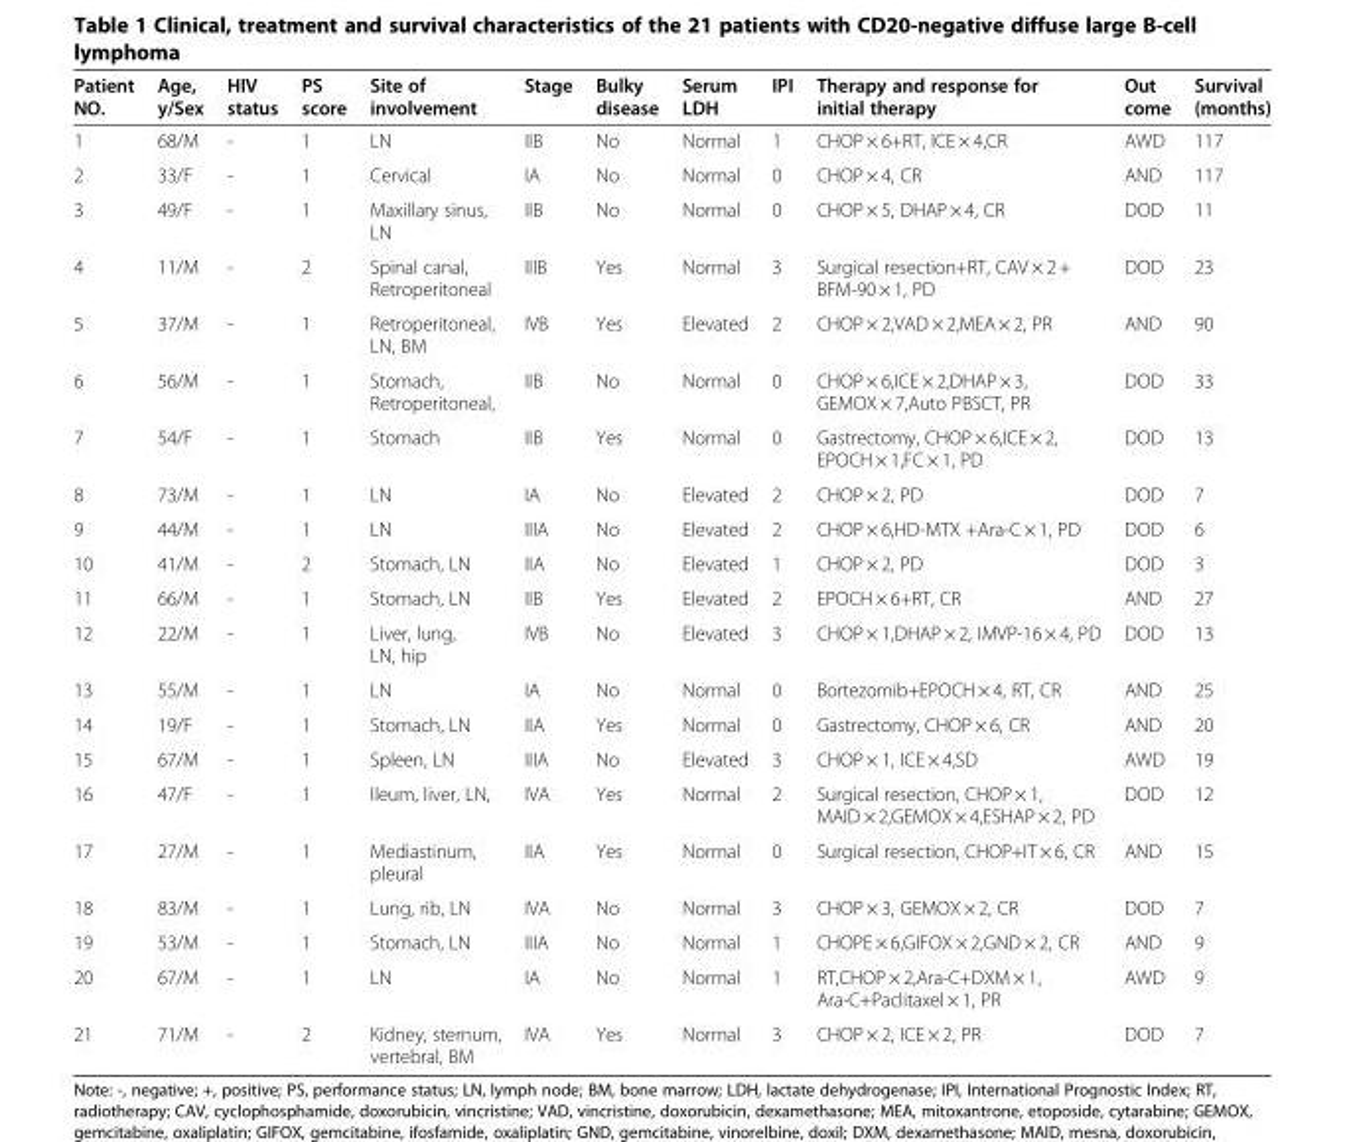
<table><thead><tr><td>Patient NO.</td><td>Age, y/Sex</td><td>HIV status</td><td>PS score</td><td>Site of involvement</td><td>Stage</td><td>Bulky disease</td><td>Serum LDH</td><td>IPI</td><td>Therapy and response for initial therapy</td><td>Out come</td><td>Survival (months)</td></tr></thead><tbody><tr><td>1</td><td>68/M</td><td>-</td><td>1</td><td>LN</td><td>IIB</td><td>No</td><td>Normal</td><td>1</td><td>CHOP × 6+RT, ICE × 4,CR</td><td>AWD</td><td>117</td></tr><tr><td>2</td><td>33/F</td><td>-</td><td>1</td><td>Cervical</td><td>IA</td><td>No</td><td>Normal</td><td>0</td><td>CHOP × 4, CR</td><td>AND</td><td>117</td></tr><tr><td>3</td><td>49/F</td><td>-</td><td>1</td><td>Maxillary sinus, LN</td><td>IIB</td><td>No</td><td>Normal</td><td>0</td><td>CHOP × 5, DHAP × 4, CR</td><td>DOD</td><td>11</td></tr><tr><td>4</td><td>11/M</td><td>-</td><td>2</td><td>Spinal canal, Retroperitoneal</td><td>IIIB</td><td>Yes</td><td>Normal</td><td>3</td><td>Surgical resection+RT, CAV × 2 + BFM-90 × 1, PD</td><td>DOD</td><td>23</td></tr><tr><td>5</td><td>37/M</td><td>-</td><td>1</td><td>Retroperitoneal, LN, BM</td><td>IVB</td><td>Yes</td><td>Elevated</td><td>2</td><td>CHOP × 2,VAD × 2,MEA × 2, PR</td><td>AND</td><td>90</td></tr><tr><td>6</td><td>56/M</td><td>-</td><td>1</td><td>Stomach, Retroperitoneal,</td><td>IIB</td><td>No</td><td>Normal</td><td>0</td><td>CHOP × 6,ICE × 2,DHAP × 3, GEMOX × 7,Auto PBSCT, PR</td><td>DOD</td><td>33</td></tr><tr><td>7</td><td>54/F</td><td>-</td><td>1</td><td>Stomach</td><td>IIB</td><td>Yes</td><td>Normal</td><td>0</td><td>Gastrectomy, CHOP × 6,ICE × 2, EPOCH × 1,FC × 1, PD</td><td>DOD</td><td>13</td></tr><tr><td>8</td><td>73/M</td><td>-</td><td>1</td><td>LN</td><td>IA</td><td>No</td><td>Elevated</td><td>2</td><td>CHOP × 2, PD</td><td>DOD</td><td>7</td></tr><tr><td>9</td><td>44/M</td><td>-</td><td>1</td><td>LN</td><td>IIIA</td><td>No</td><td>Elevated</td><td>2</td><td>CHOP × 6,HD-MTX +Ara-C × 1, PD</td><td>DOD</td><td>6</td></tr><tr><td>10</td><td>41/M</td><td>-</td><td>2</td><td>Stomach, LN</td><td>IIA</td><td>No</td><td>Elevated</td><td>1</td><td>CHOP × 2, PD</td><td>DOD</td><td>3</td></tr><tr><td>11</td><td>66/M</td><td>-</td><td>1</td><td>Stomach, LN</td><td>IIB</td><td>Yes</td><td>Elevated</td><td>2</td><td>EPOCH × 6+RT, CR</td><td>AND</td><td>27</td></tr><tr><td>12</td><td>22/M</td><td>-</td><td>1</td><td>Liver, lung, LN, hip</td><td>IVB</td><td>No</td><td>Elevated</td><td>3</td><td>CHOP × 1,DHAP × 2, IMVP-16 × 4, PD</td><td>DOD</td><td>13</td></tr><tr><td>13</td><td>55/M</td><td>-</td><td>1</td><td>LN</td><td>IA</td><td>No</td><td>Normal</td><td>0</td><td>Bortezomib+EPOCH × 4, RT, CR</td><td>AND</td><td>25</td></tr><tr><td>14</td><td>19/F</td><td>-</td><td>1</td><td>Stomach, LN</td><td>IIA</td><td>Yes</td><td>Normal</td><td>0</td><td>Gastrectomy, CHOP × 6, CR</td><td>AND</td><td>20</td></tr><tr><td>15</td><td>67/M</td><td>-</td><td>1</td><td>Spleen, LN</td><td>IIIA</td><td>No</td><td>Elevated</td><td>3</td><td>CHOP × 1, ICE × 4,SD</td><td>AWD</td><td>19</td></tr><tr><td>16</td><td>47/F</td><td>-</td><td>1</td><td>Ileum, liver, LN,</td><td>IVA</td><td>Yes</td><td>Normal</td><td>2</td><td>Surgical resection, CHOP × 1, MAID × 2,GEMOX × 4,ESHAP × 2, PD</td><td>DOD</td><td>12</td></tr><tr><td>17</td><td>27/M</td><td>-</td><td>1</td><td>Mediastinum, pleural</td><td>IIA</td><td>Yes</td><td>Normal</td><td>0</td><td>Surgical resection, CHOP+IT × 6, CR</td><td>AND</td><td>15</td></tr><tr><td>18</td><td>83/M</td><td>-</td><td>1</td><td>Lung, rib, LN</td><td>IVA</td><td>No</td><td>Normal</td><td>3</td><td>CHOP × 3, GEMOX × 2, CR</td><td>DOD</td><td>7</td></tr><tr><td>19</td><td>53/M</td><td>-</td><td>1</td><td>Stomach, LN</td><td>IIIA</td><td>No</td><td>Normal</td><td>1</td><td>CHOPE × 6,GIFOX × 2,GND × 2, CR</td><td>AND</td><td>9</td></tr><tr><td>20</td><td>67/M</td><td>-</td><td>1</td><td>LN</td><td>IA</td><td>No</td><td>Normal</td><td>1</td><td>RT,CHOP × 2,Ara-C+DXM × 1, Ara-C+Paclitaxel × 1, PR</td><td>AWD</td><td>9</td></tr><tr><td>21</td><td>71/M</td><td>-</td><td>2</td><td>Kidney, sternum, vertebral, BM</td><td>IVA</td><td>Yes</td><td>Normal</td><td>3</td><td>CHOP × 2, ICE × 2, PR</td><td>DOD</td><td>7</td></tr></tbody></table>